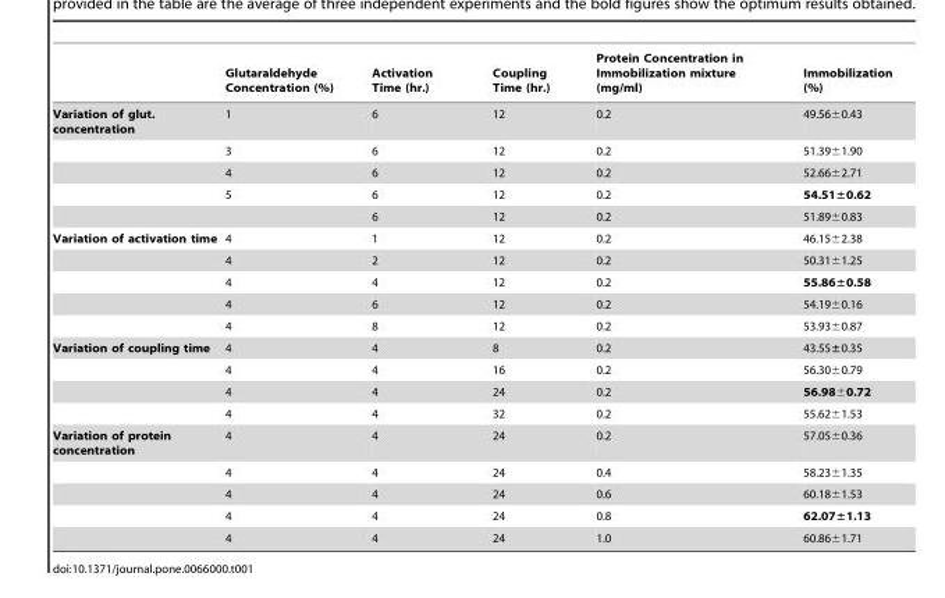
<table><thead><tr><td></td><td>Glutaraldehyde Concentration (%)</td><td>Activation Time (hr.)</td><td>Coupling Time (hr.)</td><td>Protein Concentration in Immobilization mixture (mg/ml)</td><td>Immobilization (%)</td></tr></thead><tbody><tr><td rowspan="5">Variation of glut. concentration</td><td>1</td><td>6</td><td>12</td><td>0.2</td><td>49.56±0.43</td></tr><tr><td>3</td><td>6</td><td>12</td><td>0.2</td><td>51.39±1.90</td></tr><tr><td>4</td><td>6</td><td>12</td><td>0.2</td><td>52.66±2.71</td></tr><tr><td>5</td><td>6</td><td>12</td><td>0.2</td><td>54.51±0.62</td></tr><tr><td></td><td>6</td><td>12</td><td>0.2</td><td>51.89±0.83</td></tr><tr><td rowspan="5">Variation of activation time</td><td>4</td><td>1</td><td>12</td><td>0.2</td><td>46.15±2.38</td></tr><tr><td>4</td><td>2</td><td>12</td><td>0.2</td><td>50.31±1.25</td></tr><tr><td>4</td><td>4</td><td>12</td><td>0.2</td><td>55.86±0.58</td></tr><tr><td>4</td><td>6</td><td>12</td><td>0.2</td><td>54.19±0.16</td></tr><tr><td>4</td><td>8</td><td>12</td><td>0.2</td><td>53.93±0.87</td></tr><tr><td rowspan="4">Variation of coupling time</td><td>4</td><td>4</td><td>8</td><td>0.2</td><td>43.55±0.35</td></tr><tr><td>4</td><td>4</td><td>16</td><td>0.2</td><td>56.30±0.79</td></tr><tr><td>4</td><td>4</td><td>24</td><td>0.2</td><td>56.98±0.72</td></tr><tr><td>4</td><td>4</td><td>32</td><td>0.2</td><td>55.62±1.53</td></tr><tr><td rowspan="5">Variation of protein concentration</td><td>4</td><td>4</td><td>24</td><td>0.2</td><td>57.05±0.36</td></tr><tr><td>4</td><td>4</td><td>24</td><td>0.4</td><td>58.23±1.35</td></tr><tr><td>4</td><td>4</td><td>24</td><td>0.6</td><td>60.18±1.53</td></tr><tr><td>4</td><td>4</td><td>24</td><td>0.8</td><td>62.07±1.13</td></tr><tr><td>4</td><td>4</td><td>24</td><td>1.0</td><td>60.86±1.71</td></tr></tbody></table>